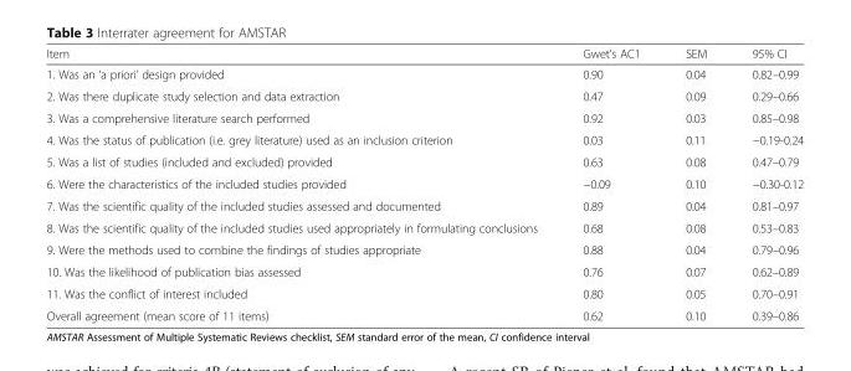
<table><thead><tr><td>Item</td><td>Gwet’s AC1</td><td>SEM</td><td>95% CI</td></tr></thead><tbody><tr><td>1. Was an ‘a priori’ design provided</td><td>0.90</td><td>0.04</td><td>0.82–0.99</td></tr><tr><td>2. Was there duplicate study selection and data extraction</td><td>0.47</td><td>0.09</td><td>0.29–0.66</td></tr><tr><td>3. Was a comprehensive literature search performed</td><td>0.92</td><td>0.03</td><td>0.85–0.98</td></tr><tr><td>4. Was the status of publication (i.e. grey literature) used as an inclusion criterion</td><td>0.03</td><td>0.11</td><td>−0.19-0.24</td></tr><tr><td>5. Was a list of studies (included and excluded) provided</td><td>0.63</td><td>0.08</td><td>0.47–0.79</td></tr><tr><td>6. Were the characteristics of the included studies provided</td><td>−0.09</td><td>0.10</td><td>−0.30-0.12</td></tr><tr><td>7. Was the scientific quality of the included studies assessed and documented</td><td>0.89</td><td>0.04</td><td>0.81–0.97</td></tr><tr><td>8. Was the scientific quality of the included studies used appropriately in formulating conclusions</td><td>0.68</td><td>0.08</td><td>0.53–0.83</td></tr><tr><td>9. Were the methods used to combine the findings of studies appropriate</td><td>0.88</td><td>0.04</td><td>0.79–0.96</td></tr><tr><td>10. Was the likelihood of publication bias assessed</td><td>0.76</td><td>0.07</td><td>0.62–0.89</td></tr><tr><td>11. Was the conflict of interest included</td><td>0.80</td><td>0.05</td><td>0.70–0.91</td></tr><tr><td>Overall agreement (mean score of 11 items)</td><td>0.62</td><td>0.10</td><td>0.39–0.86</td></tr></tbody></table>